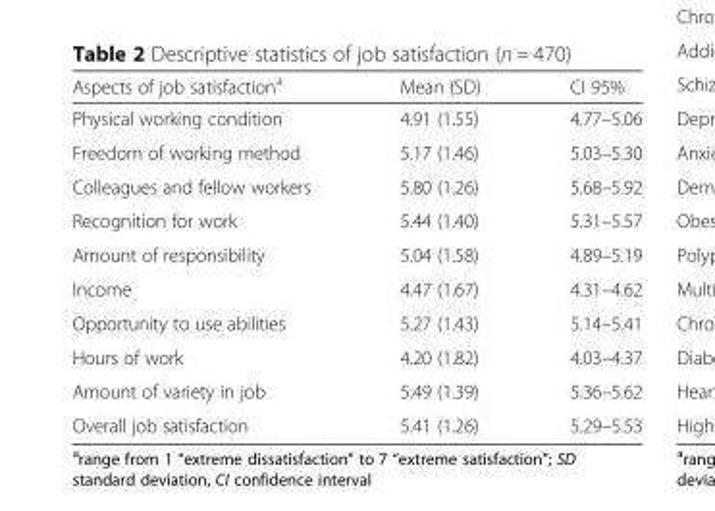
<table><thead><tr><td>Aspects of job satisfaction<sup>a</sup></td><td>Mean (SD)</td><td>CI 95%</td></tr></thead><tbody><tr><td>Physical working condition</td><td>4.91 (1.55)</td><td>4.77–5.06</td></tr><tr><td>Freedom of working method</td><td>5.17 (1.46)</td><td>5.03–5.30</td></tr><tr><td>Colleagues and fellow workers</td><td>5.80 (1.26)</td><td>5.68–5.92</td></tr><tr><td>Recognition for work</td><td>5.44 (1.40)</td><td>5.31–5.57</td></tr><tr><td>Amount of responsibility</td><td>5.04 (1.58)</td><td>4.89–5.19</td></tr><tr><td>Income</td><td>4.47 (1.67)</td><td>4.31–4.62</td></tr><tr><td>Opportunity to use abilities</td><td>5.27 (1.43)</td><td>5.14–5.41</td></tr><tr><td>Hours of work</td><td>4.20 (1.82)</td><td>4.03–4.37</td></tr><tr><td>Amount of variety in job</td><td>5.49 (1.39)</td><td>5.36–5.62</td></tr><tr><td>Overall job satisfaction</td><td>5.41 (1.26)</td><td>5.29–5.53</td></tr></tbody></table>